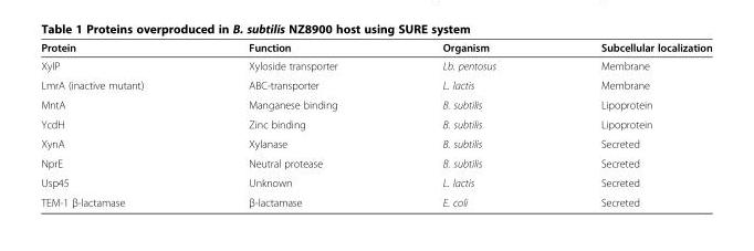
<table><thead><tr><td>Protein</td><td>Function</td><td>Organism</td><td>Subcellular localization</td></tr></thead><tbody><tr><td>XylP</td><td>Xyloside transporter</td><td>Lb. pentosus</td><td>Membrane</td></tr><tr><td>LmrA (inactive mutant)</td><td>ABC-transporter</td><td>L. lactis</td><td>Membrane</td></tr><tr><td>MntA</td><td>Manganese binding</td><td>B. subtilis</td><td>Lipoprotein</td></tr><tr><td>YcdH</td><td>Zinc binding</td><td>B. subtilis</td><td>Lipoprotein</td></tr><tr><td>XynA</td><td>Xylanase</td><td>B. subtilis</td><td>Secreted</td></tr><tr><td>NprE</td><td>Neutral protease</td><td>B. subtilis</td><td>Secreted</td></tr><tr><td>Usp45</td><td>Unknown</td><td>L. lactis</td><td>Secreted</td></tr><tr><td>TEM-1 β-lactamase</td><td>β-lactamase</td><td>E. coli</td><td>Secreted</td></tr></tbody></table>